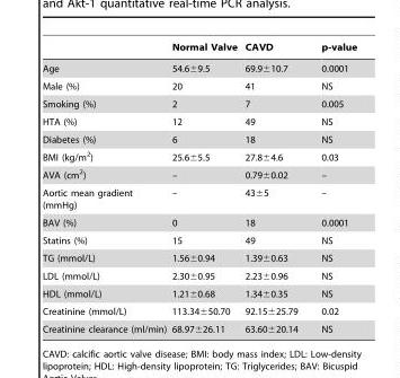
<table><thead><tr><td></td><td>Normal Valve</td><td>CAVD</td><td>p-value</td></tr></thead><tbody><tr><td>Age</td><td>54.6±9.5</td><td>69.9±10.7</td><td>0.0001</td></tr><tr><td>Male (%)</td><td>20</td><td>41</td><td>NS</td></tr><tr><td>Smoking (%)</td><td>2</td><td>7</td><td>0.005</td></tr><tr><td>HTA (%)</td><td>12</td><td>49</td><td>NS</td></tr><tr><td>Diabetes (%)</td><td>6</td><td>18</td><td>NS</td></tr><tr><td>BMI (kg/m<sup>2</sup>)</td><td>25.6±5.5</td><td>27.8±4.6</td><td>0.03</td></tr><tr><td>AVA (cm<sup>2</sup>)</td><td>–</td><td>0.79±0.02</td><td>–</td></tr><tr><td>Aortic mean gradient (mmHg)</td><td>–</td><td>43±5</td><td>–</td></tr><tr><td>BAV (%)</td><td>0</td><td>18</td><td>0.0001</td></tr><tr><td>Statins (%)</td><td>15</td><td>49</td><td>NS</td></tr><tr><td>TG (mmol/L)</td><td>1.56±0.94</td><td>1.39±0.63</td><td>NS</td></tr><tr><td>LDL (mmol/L)</td><td>2.30±0.95</td><td>2.23±0.96</td><td>NS</td></tr><tr><td>HDL (mmol/L)</td><td>1.21±0.68</td><td>1.34±0.35</td><td>NS</td></tr><tr><td>Creatinine (mmol/L)</td><td>113.34±50.70</td><td>92.15±25.79</td><td>0.02</td></tr><tr><td>Creatinine clearance (ml/min)</td><td>68.97±26.11</td><td>63.60±20.14</td><td>NS</td></tr></tbody></table>